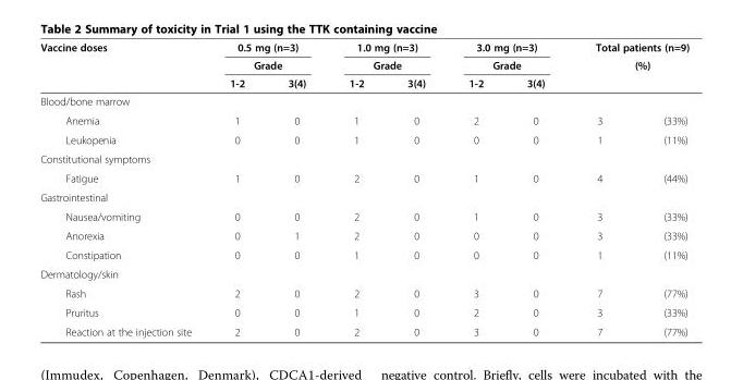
<table><thead><tr><td rowspan="3">Vaccine doses</td><td rowspan="2" colspan="2">0.5 mg (n=3) Grade</td><td rowspan="2" colspan="2">1.0 mg (n=3) Grade</td><td rowspan="2" colspan="2">3.0 mg (n=3) Grade</td><td rowspan="2" colspan="2">Total patients (n=9) (%)</td></tr><tr></tr><tr><td>1-2</td><td>3(4)</td><td>1-2</td><td>3(4)</td><td>1-2</td><td>3(4)</td><td></td><td></td></tr></thead><tbody><tr><td colspan="9">Blood/bone marrow</td></tr><tr><td>Anemia</td><td>1</td><td>0</td><td>1</td><td>0</td><td>2</td><td>0</td><td>3</td><td>(33%)</td></tr><tr><td>Leukopenia</td><td>0</td><td>0</td><td>1</td><td>0</td><td>0</td><td>0</td><td>1</td><td>(11%)</td></tr><tr><td colspan="9">Constitutional symptoms</td></tr><tr><td>Fatigue</td><td>1</td><td>0</td><td>2</td><td>0</td><td>1</td><td>0</td><td>4</td><td>(44%)</td></tr><tr><td colspan="9">Gastrointestinal</td></tr><tr><td>Nausea/vomiting</td><td>0</td><td>0</td><td>2</td><td>0</td><td>1</td><td>0</td><td>3</td><td>(33%)</td></tr><tr><td>Anorexia</td><td>0</td><td>1</td><td>2</td><td>0</td><td>0</td><td>0</td><td>3</td><td>(33%)</td></tr><tr><td>Constipation</td><td>0</td><td>0</td><td>1</td><td>0</td><td>0</td><td>0</td><td>1</td><td>(11%)</td></tr><tr><td colspan="9">Dermatology/skin</td></tr><tr><td>Rash</td><td>2</td><td>0</td><td>2</td><td>0</td><td>3</td><td>0</td><td>7</td><td>(77%)</td></tr><tr><td>Pruritus</td><td>0</td><td>0</td><td>1</td><td>0</td><td>2</td><td>0</td><td>3</td><td>(33%)</td></tr><tr><td>Reaction at the injection site</td><td>2</td><td>0</td><td>2</td><td>0</td><td>3</td><td>0</td><td>7</td><td>(77%)</td></tr></tbody></table>